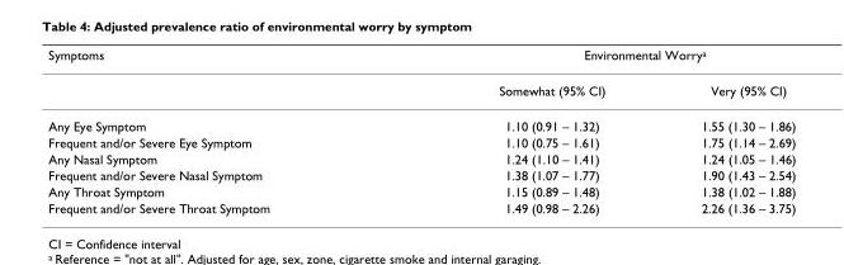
<table><thead><tr><td rowspan="2">Symptoms</td><td colspan="2">Environmental Worry<sup>a</sup></td></tr><tr><td>Somewhat (95% CI)</td><td>Very (95% CI)</td></tr></thead><tbody><tr><td>Any Eye Symptom</td><td>1.10 (0.91 – 1.32)</td><td>1.55 (1.30 – 1.86)</td></tr><tr><td>Frequent and/or Severe Eye Symptom</td><td>1.10 (0.75 – 1.61)</td><td>1.75 (1.14 – 2.69)</td></tr><tr><td>Any Nasal Symptom</td><td>1.24 (1.10 – 1.41)</td><td>1.24 (1.05 – 1.46)</td></tr><tr><td>Frequent and/or Severe Nasal Symptom</td><td>1.38 (1.07 – 1.77)</td><td>1.90 (1.43 – 2.54)</td></tr><tr><td>Any Throat Symptom</td><td>1.15 (0.89 – 1.48)</td><td>1.38 (1.02 – 1.88)</td></tr><tr><td>Frequent and/or Severe Throat Symptom</td><td>1.49 (0.98 – 2.26)</td><td>2.26 (1.36 – 3.75)</td></tr></tbody></table>